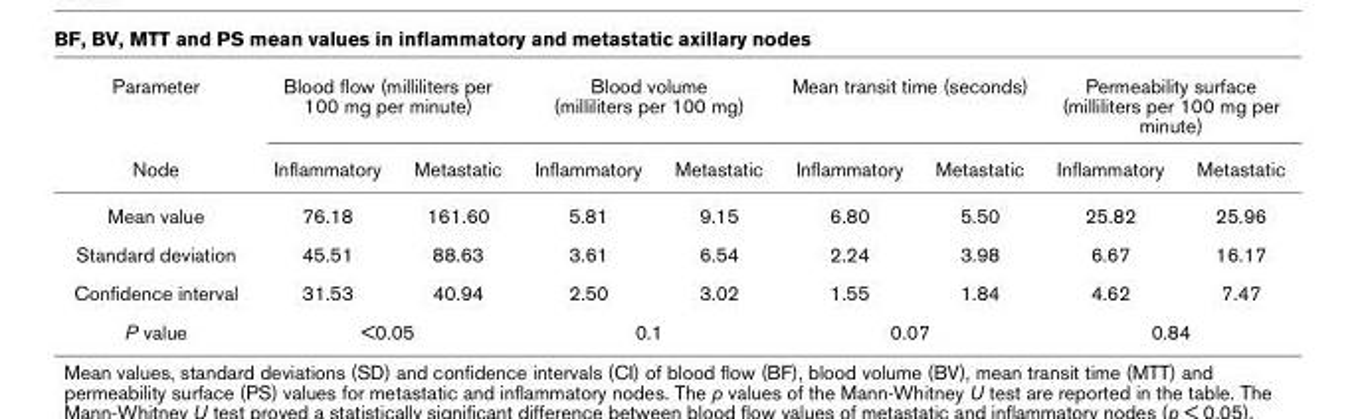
<table><thead><tr><td rowspan="2">Parameter Node</td><td colspan="2">Blood flow (milliliters per 100 mg per minute)</td><td colspan="2">Blood volume (milliliters per 100 mg)</td><td colspan="2">Mean transit time (seconds)</td><td colspan="2">Permeability surface (milliliters per 100 mg per minute)</td></tr><tr><td>Inflammatory</td><td>Metastatic</td><td>Inflammatory</td><td>Metastatic</td><td>Inflammatory</td><td>Metastatic</td><td>Inflammatory</td><td>Metastatic</td></tr></thead><tbody><tr><td>Mean value</td><td>76.18</td><td>161.60</td><td>5.81</td><td>9.15</td><td>6.80</td><td>5.50</td><td>25.82</td><td>25.96</td></tr><tr><td>Standard deviation</td><td>45.51</td><td>88.63</td><td>3.61</td><td>6.54</td><td>2.24</td><td>3.98</td><td>6.67</td><td>16.17</td></tr><tr><td>Confidence interval</td><td>31.53</td><td>40.94</td><td>2.50</td><td>3.02</td><td>1.55</td><td>1.84</td><td>4.62</td><td>7.47</td></tr><tr><td>P value</td><td colspan="2">&lt;0.05</td><td colspan="2">0.1</td><td colspan="2">0.07</td><td colspan="2">0.84</td></tr></tbody></table>